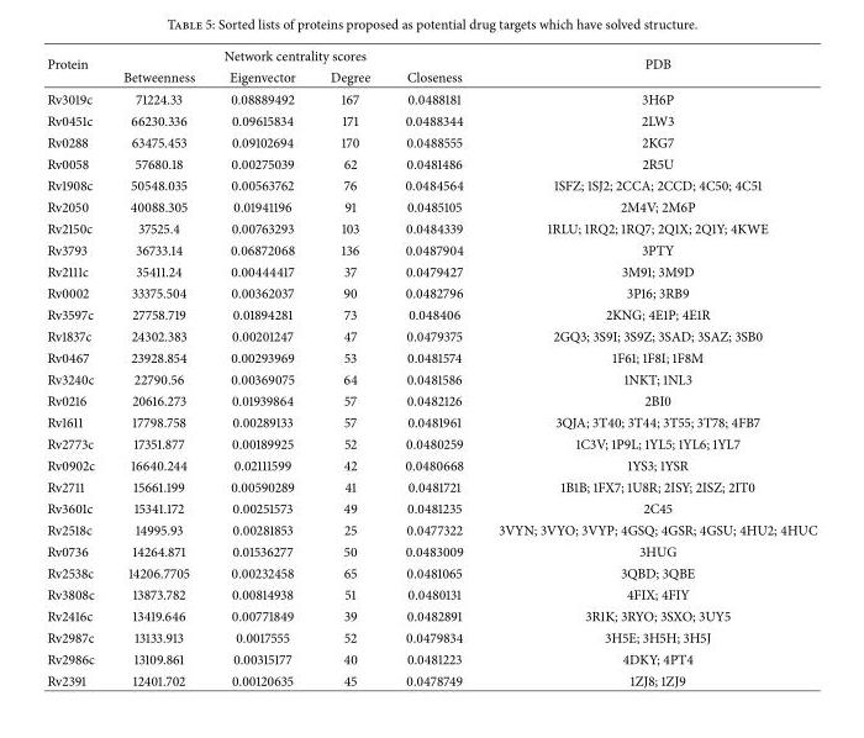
<table><thead><tr><td rowspan="2">Protein</td><td colspan="4">Network centrality scores</td><td rowspan="2">PDB</td></tr><tr><td>Betweenness</td><td>Eigenvector</td><td>Degree</td><td>Closeness</td></tr></thead><tbody><tr><td>Rv3019c</td><td>71224.33</td><td>0.08889492</td><td>167</td><td>0.0488181</td><td>3H6P</td></tr><tr><td>Rv0451c</td><td>66230.336</td><td>0.09615834</td><td>171</td><td>0.0488344</td><td>2LW3</td></tr><tr><td>Rv0288</td><td>63475.453</td><td>0.09102694</td><td>170</td><td>0.0488555</td><td>2KG7</td></tr><tr><td>Rv0058</td><td>57680.18</td><td>0.00275039</td><td>62</td><td>0.0481486</td><td>2R5U</td></tr><tr><td>Rv1908c</td><td>50548.035</td><td>0.00563762</td><td>76</td><td>0.0484564</td><td>1SFZ; 1SJ2; 2CCA; 2CCD; 4C50; 4C51</td></tr><tr><td>Rv2050</td><td>40088.305</td><td>0.01941196</td><td>91</td><td>0.0485105</td><td>2M4V; 2M6P</td></tr><tr><td>Rv2150c</td><td>37525.4</td><td>0.00763293</td><td>103</td><td>0.0484339</td><td>1RLU; 1RQ2; 1RQ7; 2Q1X; 2Q1Y; 4KWE</td></tr><tr><td>Rv3793</td><td>36733.14</td><td>0.06872068</td><td>136</td><td>0.0487904</td><td>3PTY</td></tr><tr><td>Rv2111c</td><td>35411.24</td><td>0.00444417</td><td>37</td><td>0.0479427</td><td>3M91; 3M9D</td></tr><tr><td>Rv0002</td><td>33375.504</td><td>0.00362037</td><td>90</td><td>0.0482796</td><td>3P16; 3RB9</td></tr><tr><td>Rv3597c</td><td>27758.719</td><td>0.01894281</td><td>73</td><td>0.048406</td><td>2KNG; 4E1P; 4E1R</td></tr><tr><td>Rv1837c</td><td>24302.383</td><td>0.00201247</td><td>47</td><td>0.0479375</td><td>2GQ3; 3S9I; 3S9Z; 3SAD; 3SAZ; 3SB0</td></tr><tr><td>Rv0467</td><td>23928.854</td><td>0.00293969</td><td>53</td><td>0.0481574</td><td>1F61; 1F8I; 1F8M</td></tr><tr><td>Rv3240c</td><td>22790.56</td><td>0.00369075</td><td>64</td><td>0.0481586</td><td>1NKT; 1NL3</td></tr><tr><td>Rv0216</td><td>20616.273</td><td>0.01939864</td><td>57</td><td>0.0482126</td><td>2BI0</td></tr><tr><td>Rv1611</td><td>17798.758</td><td>0.00289133</td><td>57</td><td>0.0481961</td><td>3QJA; 3T40; 3T44; 3T55; 3T78; 4FB7</td></tr><tr><td>Rv2773c</td><td>17351.877</td><td>0.00189925</td><td>52</td><td>0.0480259</td><td>1C3V; 1P9L; 1YL5; 1YL6; 1YL7</td></tr><tr><td>Rv0902c</td><td>16640.244</td><td>0.02111599</td><td>42</td><td>0.0480668</td><td>1YS3; 1YSR</td></tr><tr><td>Rv2711</td><td>15661.199</td><td>0.00590289</td><td>41</td><td>0.0481721</td><td>1B1B; 1FX7; 1U8R; 2ISY; 2ISZ; 2IT0</td></tr><tr><td>Rv3601c</td><td>15341.172</td><td>0.00251573</td><td>49</td><td>0.0481235</td><td>2C45</td></tr><tr><td>Rv2518c</td><td>14995.93</td><td>0.00281853</td><td>25</td><td>0.0477322</td><td>3VYN; 3VYO; 3VYP; 4GSQ; 4GSR; 4GSU; 4HU2; 4HUC</td></tr><tr><td>Rv0736</td><td>14264.871</td><td>0.01536277</td><td>50</td><td>0.0483009</td><td>3HUG</td></tr><tr><td>Rv2538c</td><td>14206.7705</td><td>0.00232458</td><td>65</td><td>0.0481065</td><td>3QBD; 3QBE</td></tr><tr><td>Rv3808c</td><td>13873.782</td><td>0.00814938</td><td>51</td><td>0.0480131</td><td>4FIX; 4FIY</td></tr><tr><td>Rv2416c</td><td>13419.646</td><td>0.00771849</td><td>39</td><td>0.0482891</td><td>3R1K; 3RYO; 3SXO; 3UY5</td></tr><tr><td>Rv2987c</td><td>13133.913</td><td>0.0017555</td><td>52</td><td>0.0479834</td><td>3H5E; 3H5H; 3H5J</td></tr><tr><td>Rv2986c</td><td>13109.861</td><td>0.00315177</td><td>40</td><td>0.0481223</td><td>4DKY; 4PT4</td></tr><tr><td>Rv2391</td><td>12401.702</td><td>0.00120635</td><td>45</td><td>0.0478749</td><td>1ZJ8; 1ZJ9</td></tr></tbody></table>